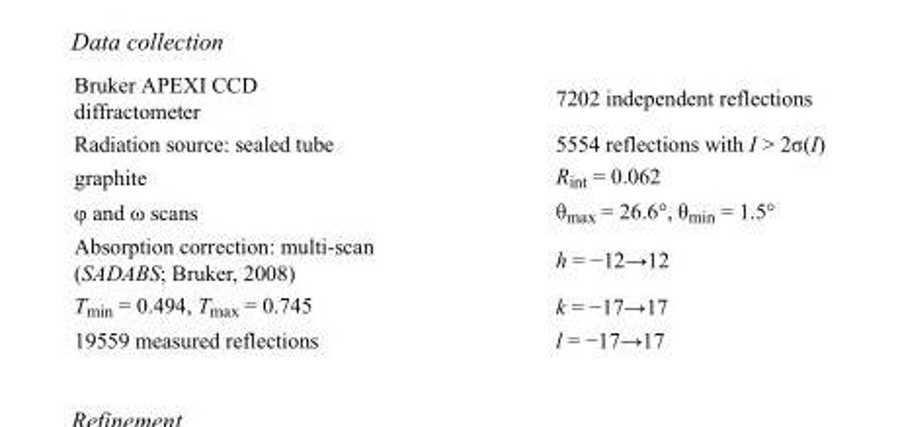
<table><tbody><tr><td>Bruker APEXI CCD diffractometer</td><td>7202 independent reflections</td></tr><tr><td>Radiation source: sealed tube</td><td>5554 reflections with I &gt; 2σ(I)</td></tr><tr><td>graphite</td><td>R<sub>int</sub> = 0.062</td></tr><tr><td>φ and ω scans</td><td>θ<sub>max</sub> = 26.6°, θ<sub>min</sub> = 1.5°</td></tr><tr><td>Absorption correction: multi-scan (SADABS; Bruker, 2008)</td><td>h = −12→12</td></tr><tr><td>T<sub>min</sub> = 0.494, T<sub>max</sub> = 0.745</td><td>k = −17→17</td></tr><tr><td>19559 measured reflections</td><td>l = −17→17</td></tr></tbody></table>